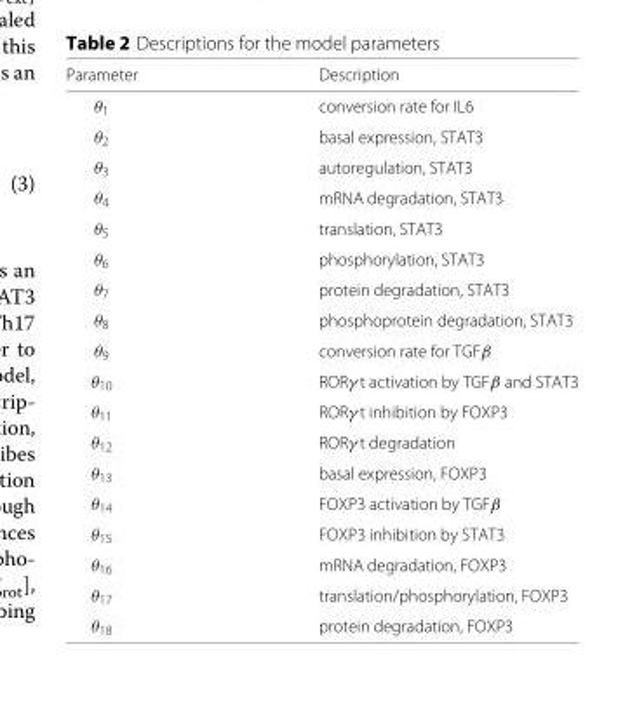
<table><thead><tr><td>Parameter</td><td>Description</td></tr></thead><tbody><tr><td>θ<sub>1</sub></td><td>conversion rate for IL6</td></tr><tr><td>θ<sub>2</sub></td><td>basal expression, STAT3</td></tr><tr><td>θ<sub>3</sub></td><td>autoregulation, STAT3</td></tr><tr><td>θ<sub>4</sub></td><td>mRNA degradation, STAT3</td></tr><tr><td>θ<sub>5</sub></td><td>translation, STAT3</td></tr><tr><td>θ<sub>6</sub></td><td>phosphorylation, STAT3</td></tr><tr><td>θ<sub>7</sub></td><td>protein degradation, STAT3</td></tr><tr><td>θ<sub>8</sub></td><td>phosphoprotein degradation, STAT3</td></tr><tr><td>θ<sub>9</sub></td><td>conversion rate for TGFβ</td></tr><tr><td>θ<sub>10</sub></td><td>RORγ t activation by TGFβ and STAT3</td></tr><tr><td>θ<sub>11</sub></td><td>RORγ t inhibition by FOXP3</td></tr><tr><td>θ<sub>12</sub></td><td>RORγ t degradation</td></tr><tr><td>θ<sub>13</sub></td><td>basal expression, FOXP3</td></tr><tr><td>θ<sub>14</sub></td><td>FOXP3 activation by TGFβ</td></tr><tr><td>θ<sub>15</sub></td><td>FOXP3 inhibition by STAT3</td></tr><tr><td>θ<sub>16</sub></td><td>mRNA degradation, FOXP3</td></tr><tr><td>θ<sub>17</sub></td><td>translation/phosphorylation, FOXP3</td></tr><tr><td>θ<sub>18</sub></td><td>protein degradation, FOXP3</td></tr></tbody></table>